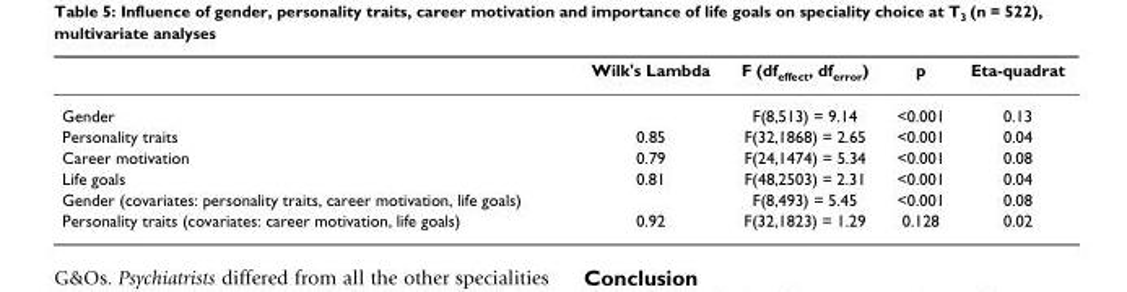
<table><thead><tr><td></td><td>Wilk&#x27;s Lambda</td><td>F (dfeffect, dferror)</td><td>p</td><td>Eta-quadrat</td></tr></thead><tbody><tr><td>Gender</td><td></td><td>F(8,513) = 9.14</td><td>&lt;0.001</td><td>0.13</td></tr><tr><td>Personality traits</td><td>0.85</td><td>F(32,1868) = 2.65</td><td>&lt;0.001</td><td>0.04</td></tr><tr><td>Career motivation</td><td>0.79</td><td>F(24,1474) = 5.34</td><td>&lt;0.001</td><td>0.08</td></tr><tr><td>Life goals</td><td>0.81</td><td>F(48,2503) = 2.31</td><td>&lt;0.001</td><td>0.04</td></tr><tr><td>Gender (covariates: personality traits, career motivation, life goals)</td><td></td><td>F(8,493) = 5.45</td><td>&lt;0.001</td><td>0.08</td></tr><tr><td>Personality traits (covariates: career motivation, life goals)</td><td>0.92</td><td>F(32,1823) = 1.29</td><td>0.128</td><td>0.02</td></tr></tbody></table>